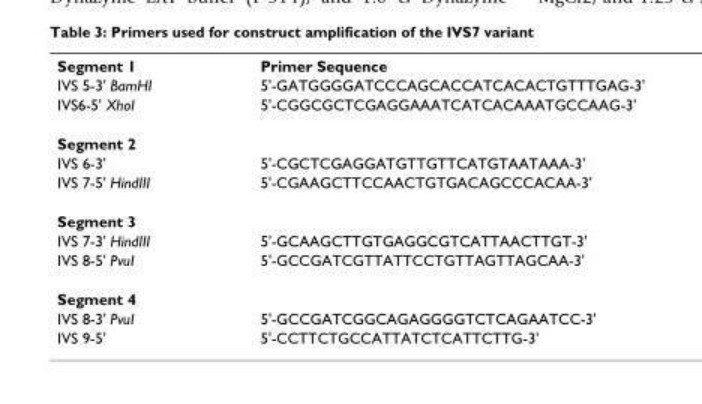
<table><tbody><tr><td>Segment 1</td><td>Primer Sequence</td></tr><tr><td>IVS 5-3&#x27; BamHI</td><td>5&#x27;-GATGGGGATCCCAGCACCATCACACTGTTTGAG-3&#x27;</td></tr><tr><td>IVS6-5&#x27; XhoI</td><td>5&#x27;-CGGCGCTCGAGGAAATCATCACAAATGCCAAG-3&#x27;</td></tr><tr><td colspan="2">Segment 2</td></tr><tr><td>IVS 6-3&#x27;</td><td>5&#x27;-CGCTCGAGGATGTTGTTCATGTAATAAA-3&#x27;</td></tr><tr><td>IVS 7-5&#x27; HindIII</td><td>5&#x27;-CGAAGCTTCCAACTGTGACAGCCCACAA-3&#x27;</td></tr><tr><td colspan="2">Segment 3</td></tr><tr><td>IVS 7-3&#x27; HindIII</td><td>5&#x27;-GCAAGCTTGTGAGGCGTCATTAACTTGT-3&#x27;</td></tr><tr><td>IVS 8-5&#x27; PvuI</td><td>5&#x27;-GCCGATCGTTATTCCTGTTAGTTAGCAA-3&#x27;</td></tr><tr><td colspan="2">Segment 4</td></tr><tr><td>IVS 8-3&#x27; PvuI</td><td>5&#x27;-GCCGATCGGCAGAGGGGTCTCAGAATCC-3&#x27;</td></tr><tr><td>IVS 9-5&#x27;</td><td>5&#x27;-CCTTCTGCCATTATCTCATTCTTG-3&#x27;</td></tr></tbody></table>